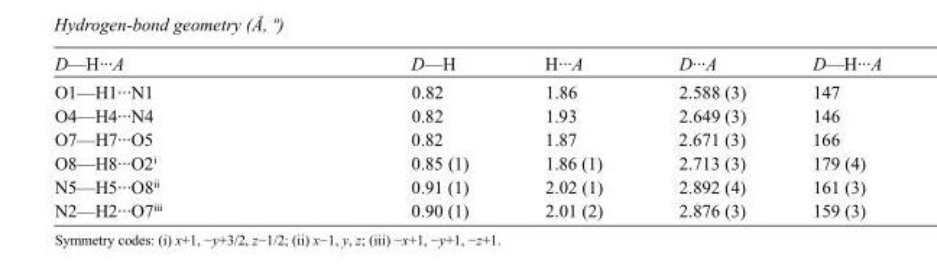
<table><tbody><tr><td>D—H···A</td><td>D—H</td><td>H···A</td><td>D···A</td><td>D—H···A</td></tr><tr><td>O1—H1···N1</td><td>0.82</td><td>1.86</td><td>2.588 (3)</td><td>147</td></tr><tr><td>O4—H4···N4</td><td>0.82</td><td>1.93</td><td>2.649 (3)</td><td>146</td></tr><tr><td>O7—H7···O5</td><td>0.82</td><td>1.87</td><td>2.671 (3)</td><td>166</td></tr><tr><td>O8—H8···O2<sup>i</sup></td><td>0.85 (1)</td><td>1.86 (1)</td><td>2.713 (3)</td><td>179 (4)</td></tr><tr><td>N5—H5···O8<sup>ii</sup></td><td>0.91 (1)</td><td>2.02 (1)</td><td>2.892 (4)</td><td>161 (3)</td></tr><tr><td>N2—H2···O7<sup>iii</sup></td><td>0.90 (1)</td><td>2.01 (2)</td><td>2.876 (3)</td><td>159 (3)</td></tr></tbody></table>